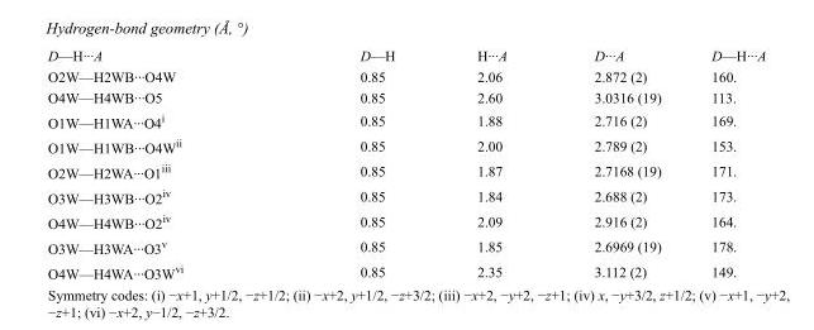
<table><tbody><tr><td>D—H···A</td><td>D—H</td><td>H···A</td><td>D···A</td><td>D—H···A</td></tr><tr><td>O2W—H2WB···O4W</td><td>0.85</td><td>2.06</td><td>2.872 (2)</td><td>160.</td></tr><tr><td>O4W—H4WB···O5</td><td>0.85</td><td>2.60</td><td>3.0316 (19)</td><td>113.</td></tr><tr><td>O1W—H1WA···O4<sup>i</sup></td><td>0.85</td><td>1.88</td><td>2.716 (2)</td><td>169.</td></tr><tr><td>O1W—H1WB···O4W<sup>ii</sup></td><td>0.85</td><td>2.00</td><td>2.789 (2)</td><td>153.</td></tr><tr><td>O2W—H2WA···O1<sup>iii</sup></td><td>0.85</td><td>1.87</td><td>2.7168 (19)</td><td>171.</td></tr><tr><td>O3W—H3WB···O2<sup>iv</sup></td><td>0.85</td><td>1.84</td><td>2.688 (2)</td><td>173.</td></tr><tr><td>O4W—H4WB···O2<sup>iv</sup></td><td>0.85</td><td>2.09</td><td>2.916 (2)</td><td>164.</td></tr><tr><td>O3W—H3WA···O3<sup>v</sup></td><td>0.85</td><td>1.85</td><td>2.6969 (19)</td><td>178.</td></tr><tr><td>O4W—H4WA···O3W<sup>vi</sup></td><td>0.85</td><td>2.35</td><td>3.112 (2)</td><td>149.</td></tr></tbody></table>